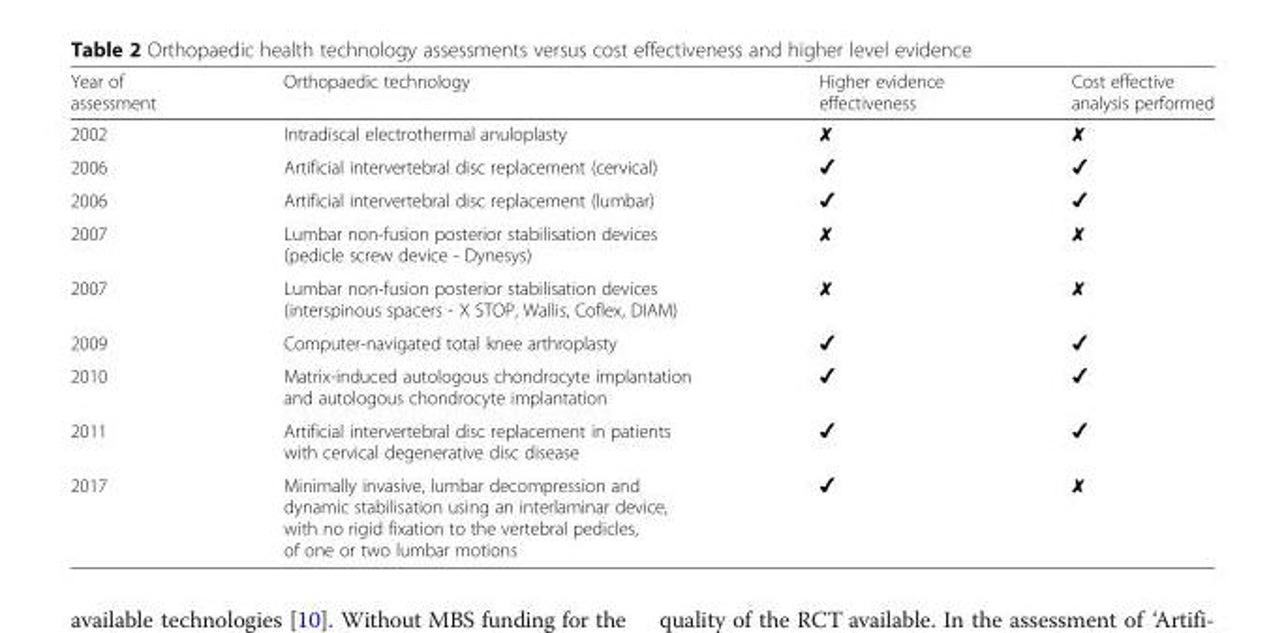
<table><thead><tr><td>Year of assessment</td><td>Orthopaedic technology</td><td>Higher evidence effectiveness</td><td>Cost effective analysis performed</td></tr></thead><tbody><tr><td>2002</td><td>Intradiscal electrothermal anuloplasty</td><td>✘</td><td>✘</td></tr><tr><td>2006</td><td>Artificial intervertebral disc replacement (cervical)</td><td>✔</td><td>✔</td></tr><tr><td>2006</td><td>Artificial intervertebral disc replacement (lumbar)</td><td>✔</td><td>✔</td></tr><tr><td>2007</td><td>Lumbar non-fusion posterior stabilisation devices (pedicle screw device - Dynesys)</td><td>✘</td><td>✘</td></tr><tr><td>2007</td><td>Lumbar non-fusion posterior stabilisation devices (interspinous spacers - X STOP, Wallis, Coflex, DIAM)</td><td>✘</td><td>✘</td></tr><tr><td>2009</td><td>Computer-navigated total knee arthroplasty</td><td>✔</td><td>✔</td></tr><tr><td>2010</td><td>Matrix-induced autologous chondrocyte implantation and autologous chondrocyte implantation</td><td>✔</td><td>✔</td></tr><tr><td>2011</td><td>Artificial intervertebral disc replacement in patients with cervical degenerative disc disease</td><td>✔</td><td>✔</td></tr><tr><td>2017</td><td>Minimally invasive, lumbar decompression and dynamic stabilisation using an interlaminar device, with no rigid fixation to the vertebral pedicles, of one or two lumbar motions</td><td>✔</td><td>✘</td></tr></tbody></table>